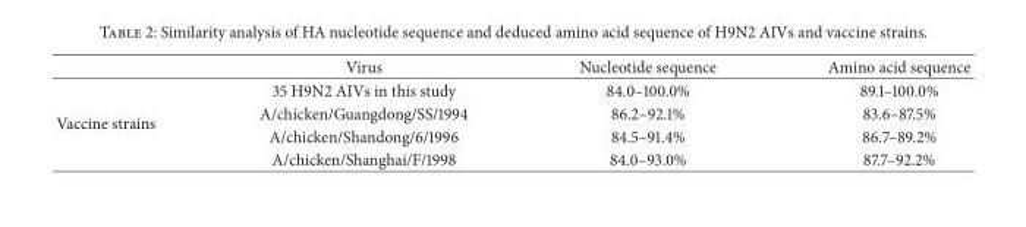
<table><thead><tr><td></td><td>Virus</td><td>Nucleotide sequence</td><td>Amino acid sequence</td></tr></thead><tbody><tr><td rowspan="4">Vaccine strains</td><td>35 H9N2 AIVs in this study</td><td>84.0–100.0%</td><td>89.1–100.0%</td></tr><tr><td>A/chicken/Guangdong/SS/1994</td><td>86.2–92.1%</td><td>83.6–87.5%</td></tr><tr><td>A/chicken/Shandong/6/1996</td><td>84.5–91.4%</td><td>86.7–89.2%</td></tr><tr><td>A/chicken/Shanghai/F/1998</td><td>84.0–93.0%</td><td>87.7–92.2%</td></tr></tbody></table>